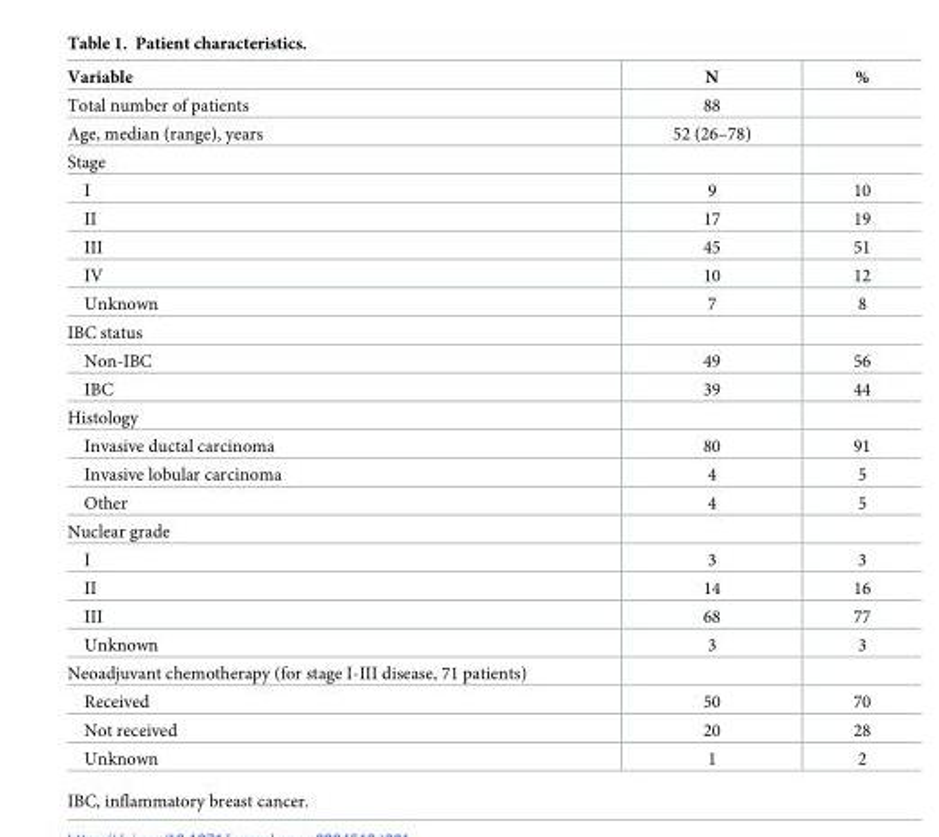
<table><thead><tr><td>Variable</td><td>N</td><td>%</td></tr></thead><tbody><tr><td>Total number of patients</td><td>88</td><td></td></tr><tr><td>Age, median (range), years</td><td>52 (26–78)</td><td></td></tr><tr><td colspan="3">Stage</td></tr><tr><td>I</td><td>9</td><td>10</td></tr><tr><td>II</td><td>17</td><td>19</td></tr><tr><td>III</td><td>45</td><td>51</td></tr><tr><td>IV</td><td>10</td><td>12</td></tr><tr><td>Unknown</td><td>7</td><td>8</td></tr><tr><td colspan="3">IBC status</td></tr><tr><td>Non-IBC</td><td>49</td><td>56</td></tr><tr><td>IBC</td><td>39</td><td>44</td></tr><tr><td colspan="3">Histology</td></tr><tr><td>Invasive ductal carcinoma</td><td>80</td><td>91</td></tr><tr><td>Invasive lobular carcinoma</td><td>4</td><td>5</td></tr><tr><td>Other</td><td>4</td><td>5</td></tr><tr><td colspan="3">Nuclear grade</td></tr><tr><td>I</td><td>3</td><td>3</td></tr><tr><td>II</td><td>14</td><td>16</td></tr><tr><td>III</td><td>68</td><td>77</td></tr><tr><td>Unknown</td><td>3</td><td>3</td></tr><tr><td colspan="3">Neoadjuvant chemotherapy (for stage I-III disease, 71 patients)</td></tr><tr><td>Received</td><td>50</td><td>70</td></tr><tr><td>Not received</td><td>20</td><td>28</td></tr><tr><td>Unknown</td><td>1</td><td>2</td></tr></tbody></table>